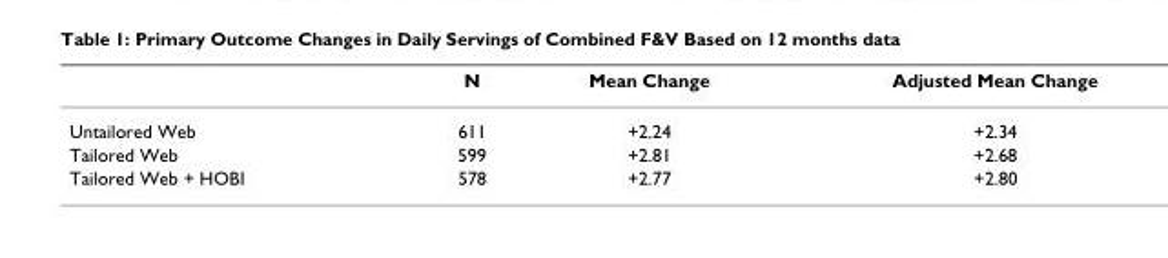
<table><thead><tr><td></td><td>N</td><td>Mean Change</td><td>Adjusted Mean Change</td></tr></thead><tbody><tr><td>Untailored Web</td><td>611</td><td>+2.24</td><td>+2.34</td></tr><tr><td>Tailored Web</td><td>599</td><td>+2.81</td><td>+2.68</td></tr><tr><td>Tailored Web + HOBI</td><td>578</td><td>+2.77</td><td>+2.80</td></tr></tbody></table>